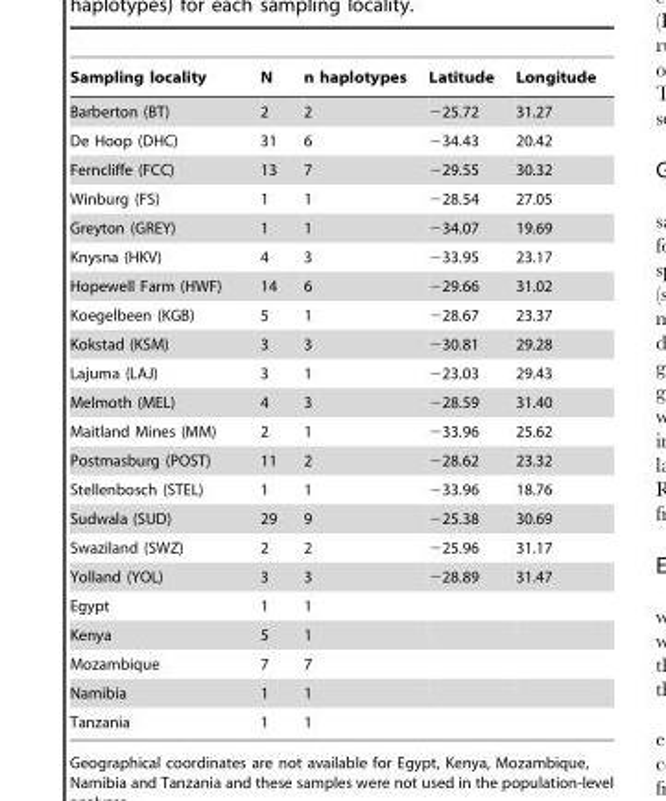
<table><thead><tr><td>Sampling locality</td><td>N</td><td>n haplotypes</td><td>Latitude</td><td>Longitude</td></tr></thead><tbody><tr><td>Barberton (BT)</td><td>2</td><td>2</td><td>−25.72</td><td>31.27</td></tr><tr><td>De Hoop (DHC)</td><td>31</td><td>6</td><td>−34.43</td><td>20.42</td></tr><tr><td>Ferncliffe (FCC)</td><td>13</td><td>7</td><td>−29.55</td><td>30.32</td></tr><tr><td>Winburg (FS)</td><td>1</td><td>1</td><td>−28.54</td><td>27.05</td></tr><tr><td>Greyton (GREY)</td><td>1</td><td>1</td><td>−34.07</td><td>19.69</td></tr><tr><td>Knysna (HKV)</td><td>4</td><td>3</td><td>−33.95</td><td>23.17</td></tr><tr><td>Hopewell Farm (HWF)</td><td>14</td><td>6</td><td>−29.66</td><td>31.02</td></tr><tr><td>Koegelbeen (KGB)</td><td>5</td><td>1</td><td>−28.67</td><td>23.37</td></tr><tr><td>Kokstad (KSM)</td><td>3</td><td>3</td><td>−30.81</td><td>29.28</td></tr><tr><td>Lajuma (LAJ)</td><td>3</td><td>1</td><td>−23.03</td><td>29.43</td></tr><tr><td>Melmoth (MEL)</td><td>4</td><td>3</td><td>−28.59</td><td>31.40</td></tr><tr><td>Maitland Mines (MM)</td><td>2</td><td>1</td><td>−33.96</td><td>25.62</td></tr><tr><td>Postmasburg (POST)</td><td>11</td><td>2</td><td>−28.62</td><td>23.32</td></tr><tr><td>Stellenbosch (STEL)</td><td>1</td><td>1</td><td>−33.96</td><td>18.76</td></tr><tr><td>Sudwala (SUD)</td><td>29</td><td>9</td><td>−25.38</td><td>30.69</td></tr><tr><td>Swaziland (SWZ)</td><td>2</td><td>2</td><td>−25.96</td><td>31.17</td></tr><tr><td>Yolland (YOL)</td><td>3</td><td>3</td><td>−28.89</td><td>31.47</td></tr><tr><td>Egypt</td><td>1</td><td>1</td><td></td><td></td></tr><tr><td>Kenya</td><td>5</td><td>1</td><td></td><td></td></tr><tr><td>Mozambique</td><td>7</td><td>7</td><td></td><td></td></tr><tr><td>Namibia</td><td>1</td><td>1</td><td></td><td></td></tr><tr><td>Tanzania</td><td>1</td><td>1</td><td></td><td></td></tr></tbody></table>